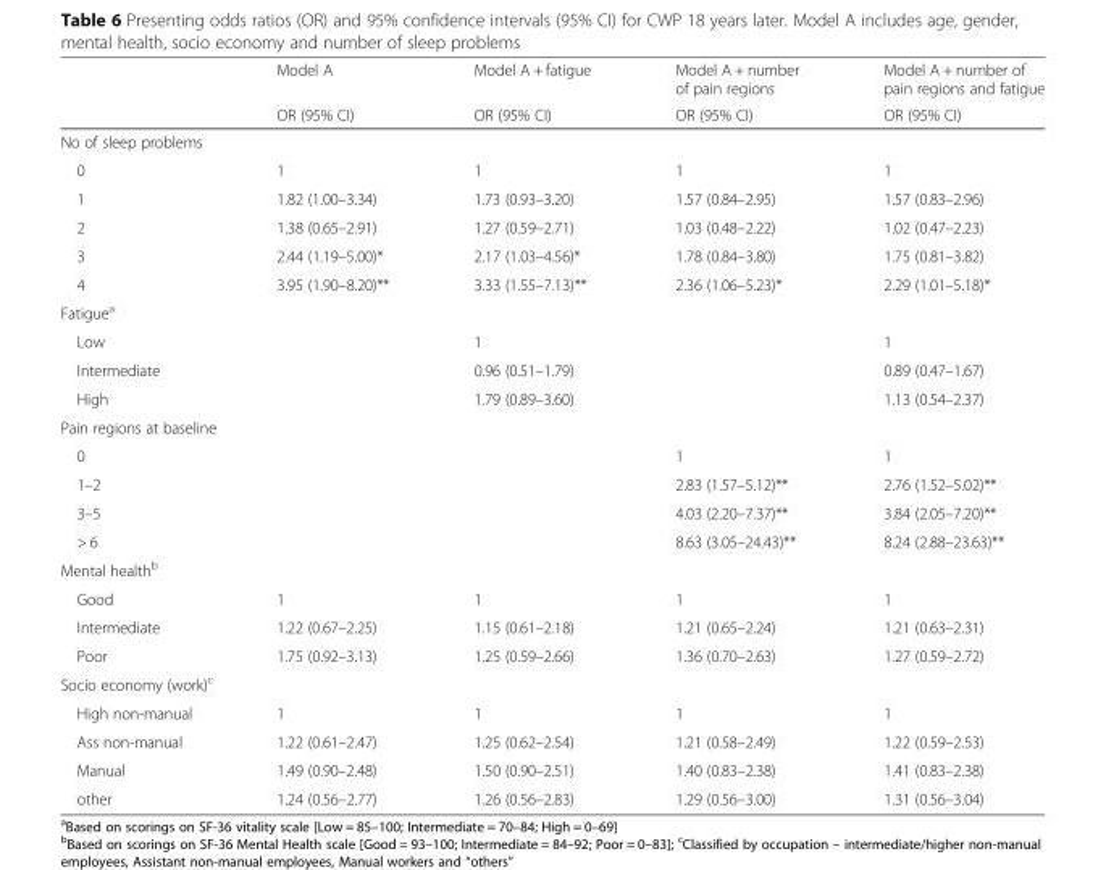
<table><thead><tr><td rowspan="2"></td><td rowspan="2">Model A OR (95% CI)</td><td rowspan="2">Model A + fatigue OR (95% CI)</td><td rowspan="2">Model A + number of pain regions OR (95% CI)</td><td rowspan="2">Model A + number of pain regions and fatigue OR (95% CI)</td></tr><tr></tr></thead><tbody><tr><td colspan="5">No of sleep problems</td></tr><tr><td>0</td><td>1</td><td>1</td><td>1</td><td>1</td></tr><tr><td>1</td><td>1.82 (1.00–3.34)</td><td>1.73 (0.93–3.20)</td><td>1.57 (0.84–2.95)</td><td>1.57 (0.83–2.96)</td></tr><tr><td>2</td><td>1.38 (0.65–2.91)</td><td>1.27 (0.59–2.71)</td><td>1.03 (0.48–2.22)</td><td>1.02 (0.47–2.23)</td></tr><tr><td>3</td><td>2.44 (1.19–5.00)*</td><td>2.17 (1.03–4.56)*</td><td>1.78 (0.84–3.80)</td><td>1.75 (0.81–3.82)</td></tr><tr><td>4</td><td>3.95 (1.90–8.20)**</td><td>3.33 (1.55–7.13)**</td><td>2.36 (1.06–5.23)*</td><td>2.29 (1.01–5.18)*</td></tr><tr><td colspan="5">Fatigue<sup>a</sup></td></tr><tr><td>Low</td><td></td><td>1</td><td></td><td>1</td></tr><tr><td>Intermediate</td><td></td><td>0.96 (0.51–1.79)</td><td></td><td>0.89 (0.47–1.67)</td></tr><tr><td>High</td><td></td><td>1.79 (0.89–3.60)</td><td></td><td>1.13 (0.54–2.37)</td></tr><tr><td colspan="5">Pain regions at baseline</td></tr><tr><td>0</td><td></td><td></td><td>1</td><td>1</td></tr><tr><td>1–2</td><td></td><td></td><td>2.83 (1.57–5.12)**</td><td>2.76 (1.52–5.02)**</td></tr><tr><td>3–5</td><td></td><td></td><td>4.03 (2.20–7.37)**</td><td>3.84 (2.05–7.20)**</td></tr><tr><td>&gt; 6</td><td></td><td></td><td>8.63 (3.05–24.43)**</td><td>8.24 (2.88–23.63)**</td></tr><tr><td colspan="5">Mental health<sup>b</sup></td></tr><tr><td>Good</td><td>1</td><td>1</td><td>1</td><td>1</td></tr><tr><td>Intermediate</td><td>1.22 (0.67–2.25)</td><td>1.15 (0.61–2.18)</td><td>1.21 (0.65–2.24)</td><td>1.21 (0.63–2.31)</td></tr><tr><td>Poor</td><td>1.75 (0.92–3.13)</td><td>1.25 (0.59–2.66)</td><td>1.36 (0.70–2.63)</td><td>1.27 (0.59–2.72)</td></tr><tr><td colspan="5">Socio economy (work)<sup>c</sup></td></tr><tr><td>High non-manual</td><td>1</td><td>1</td><td>1</td><td>1</td></tr><tr><td>Ass non-manual</td><td>1.22 (0.61–2.47)</td><td>1.25 (0.62–2.54)</td><td>1.21 (0.58–2.49)</td><td>1.22 (0.59–2.53)</td></tr><tr><td>Manual</td><td>1.49 (0.90–2.48)</td><td>1.50 (0.90–2.51)</td><td>1.40 (0.83–2.38)</td><td>1.41 (0.83–2.38)</td></tr><tr><td>other</td><td>1.24 (0.56–2.77)</td><td>1.26 (0.56–2.83)</td><td>1.29 (0.56–3.00)</td><td>1.31 (0.56–3.04)</td></tr></tbody></table>